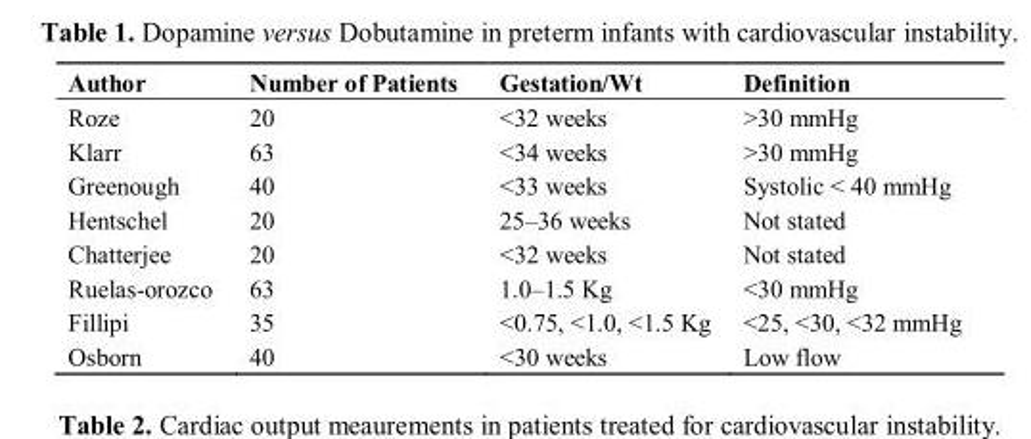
<table><thead><tr><td>Author</td><td>Number of Patients</td><td>Gestation/Wt</td><td>Definition</td></tr></thead><tbody><tr><td>Roze</td><td>20</td><td>&lt;32 weeks</td><td>&gt;30 mmHg</td></tr><tr><td>Klarr</td><td>63</td><td>&lt;34 weeks</td><td>&gt;30 mmHg</td></tr><tr><td>Greenough</td><td>40</td><td>&lt;33 weeks</td><td>Systolic &lt; 40 mmHg</td></tr><tr><td>Hentschel</td><td>20</td><td>25–36 weeks</td><td>Not stated</td></tr><tr><td>Chatterjee</td><td>20</td><td>&lt;32 weeks</td><td>Not stated</td></tr><tr><td>Ruelas-orozco</td><td>63</td><td>1.0–1.5 Kg</td><td>&lt;30 mmHg</td></tr><tr><td>Fillipi</td><td>35</td><td>&lt;0.75, &lt;1.0, &lt;1.5 Kg</td><td>&lt;25, &lt;30, &lt;32 mmHg</td></tr><tr><td>Osborn</td><td>40</td><td>&lt;30 weeks</td><td>Low flow</td></tr></tbody></table>